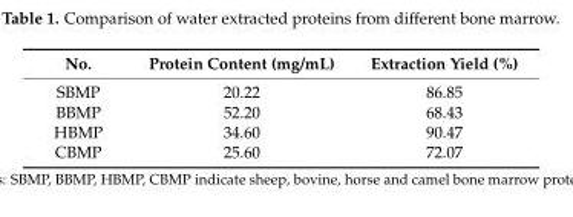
<table><thead><tr><td>No.</td><td>Protein Content (mg/mL)</td><td>Extraction Yield (%)</td></tr></thead><tbody><tr><td>SBMP</td><td>20.22</td><td>86.85</td></tr><tr><td>BBMP</td><td>52.20</td><td>68.43</td></tr><tr><td>HBMP</td><td>34.60</td><td>90.47</td></tr><tr><td>CBMP</td><td>25.60</td><td>72.07</td></tr></tbody></table>